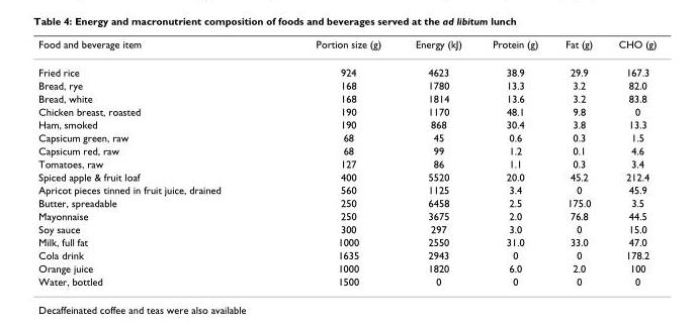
<table><thead><tr><td>Food and beverage item</td><td>Portion size (g)</td><td>Energy (kJ)</td><td>Protein (g)</td><td>Fat (g)</td><td>CHO (g)</td></tr></thead><tbody><tr><td>Fried rice</td><td>924</td><td>4623</td><td>38.9</td><td>29.9</td><td>167.3</td></tr><tr><td>Bread, rye</td><td>168</td><td>1780</td><td>13.3</td><td>3.2</td><td>82.0</td></tr><tr><td>Bread, white</td><td>168</td><td>1814</td><td>13.6</td><td>3.2</td><td>83.8</td></tr><tr><td>Chicken breast, roasted</td><td>190</td><td>1170</td><td>48.1</td><td>9.8</td><td>0</td></tr><tr><td>Ham, smoked</td><td>190</td><td>868</td><td>30.4</td><td>3.8</td><td>13.3</td></tr><tr><td>Capsicum green, raw</td><td>68</td><td>45</td><td>0.6</td><td>0.3</td><td>1.5</td></tr><tr><td>Capsicum red, raw</td><td>68</td><td>99</td><td>1.2</td><td>0.1</td><td>4.6</td></tr><tr><td>Tomatoes, raw</td><td>127</td><td>86</td><td>1.1</td><td>0.3</td><td>3.4</td></tr><tr><td>Spiced apple &amp; fruit loaf</td><td>400</td><td>5520</td><td>20.0</td><td>45.2</td><td>212.4</td></tr><tr><td>Apricot pieces tinned in fruit juice, drained</td><td>560</td><td>1125</td><td>3.4</td><td>0</td><td>45.9</td></tr><tr><td>Butter, spreadable</td><td>250</td><td>6458</td><td>2.5</td><td>175.0</td><td>3.5</td></tr><tr><td>Mayonnaise</td><td>250</td><td>3675</td><td>2.0</td><td>76.8</td><td>44.5</td></tr><tr><td>Soy sauce</td><td>300</td><td>297</td><td>3.0</td><td>0</td><td>15.0</td></tr><tr><td>Milk, full fat</td><td>1000</td><td>2550</td><td>31.0</td><td>33.0</td><td>47.0</td></tr><tr><td>Cola drink</td><td>1635</td><td>2943</td><td>0</td><td>0</td><td>178.2</td></tr><tr><td>Orange juice</td><td>1000</td><td>1820</td><td>6.0</td><td>2.0</td><td>100</td></tr><tr><td>Water, bottled</td><td>1500</td><td>0</td><td>0</td><td>0</td><td>0</td></tr></tbody></table>